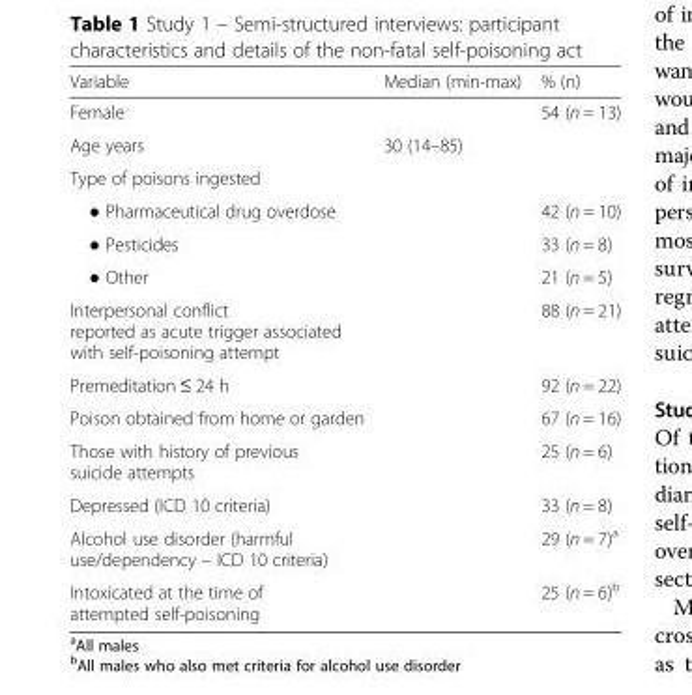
<table><thead><tr><td>Variable</td><td>Median (min-max)</td><td>% (n)</td></tr></thead><tbody><tr><td>Female</td><td></td><td>54 (n = 13)</td></tr><tr><td>Age years</td><td>30 (14–85)</td><td></td></tr><tr><td colspan="3">Type of poisons ingested</td></tr><tr><td>● Pharmaceutical drug overdose</td><td></td><td>42 (n = 10)</td></tr><tr><td>● Pesticides</td><td></td><td>33 (n = 8)</td></tr><tr><td>● Other</td><td></td><td>21 (n = 5)</td></tr><tr><td>Interpersonal conflict reported as acute trigger associated with self-poisoning attempt</td><td></td><td>88 (n = 21)</td></tr><tr><td>Premeditation ≤ 24 h</td><td></td><td>92 (n = 22)</td></tr><tr><td>Poison obtained from home or garden</td><td></td><td>67 (n = 16)</td></tr><tr><td>Those with history of previous suicide attempts</td><td></td><td>25 (n = 6)</td></tr><tr><td>Depressed (ICD 10 criteria)</td><td></td><td>33 (n = 8)</td></tr><tr><td>Alcohol use disorder (harmful use/dependency – ICD 10 criteria)</td><td></td><td>29 (n = 7)<sup>a</sup></td></tr><tr><td>Intoxicated at the time of attempted self-poisoning</td><td></td><td>25 (n = 6)<sup>b</sup></td></tr></tbody></table>